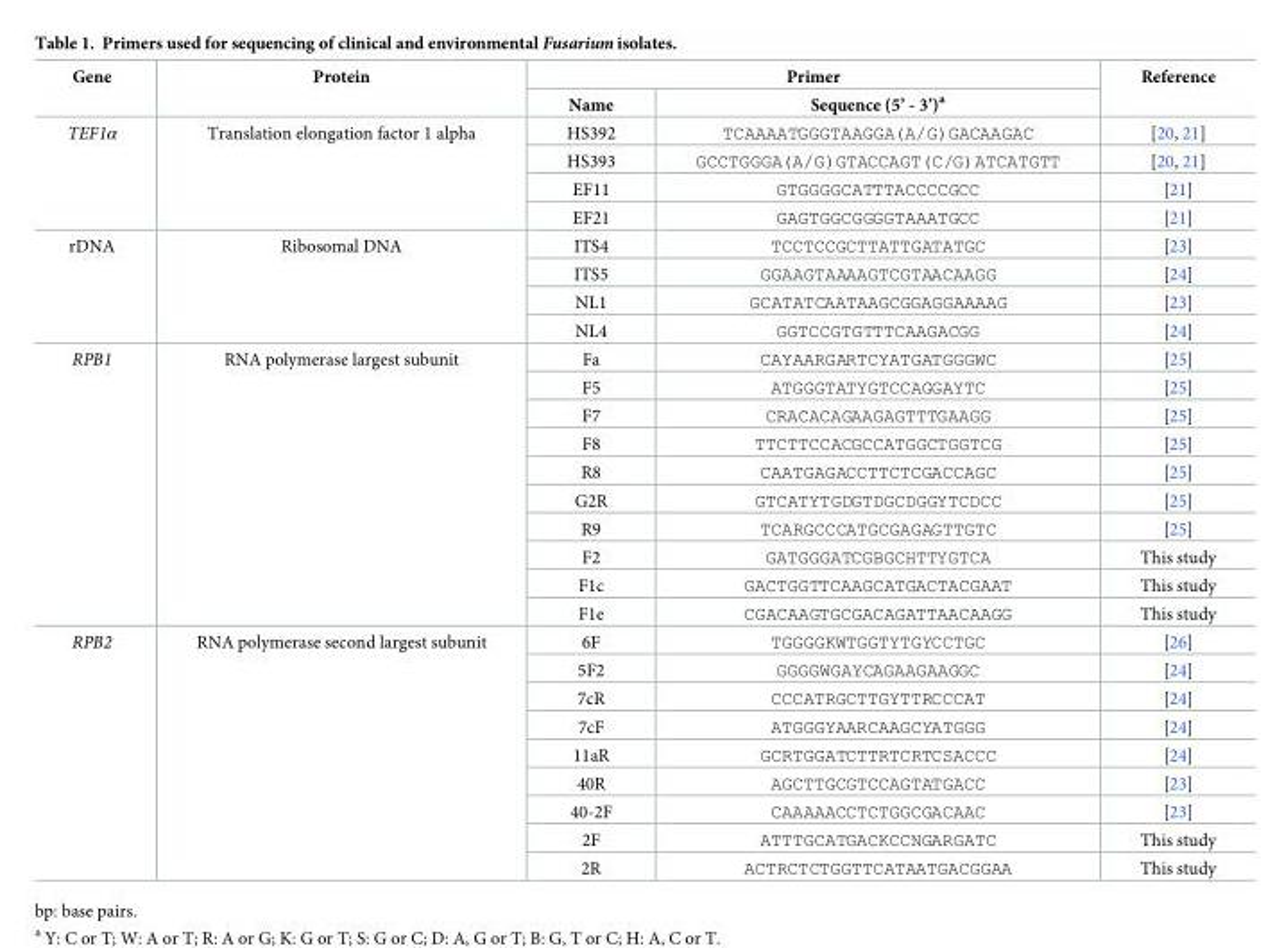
<table><thead><tr><td rowspan="2">Gene</td><td rowspan="2">Protein</td><td colspan="2">Primer</td><td rowspan="2">Reference</td></tr><tr><td>Name</td><td>Sequence (5’ - 3’)<sup>a</sup></td></tr></thead><tbody><tr><td rowspan="4">TEF1α</td><td rowspan="4">Translation elongation factor 1 alpha</td><td>HS392</td><td>TCAAAATGGGTAAGGA(A/G)GACAAGAC</td><td>[20, 21]</td></tr><tr><td>HS393</td><td>GCCTGGGA(A/G)GTACCAGT(C/G)ATCATGTT</td><td>[20, 21]</td></tr><tr><td>EF11</td><td>GTGGGGCATTTACCCCGCC</td><td>[21]</td></tr><tr><td>EF21</td><td>GAGTGGCGGGGTAAATGCC</td><td>[21]</td></tr><tr><td rowspan="4">rDNA</td><td rowspan="4">Ribosomal DNA</td><td>ITS4</td><td>TCCTCCGCTTATTGATATGC</td><td>[23]</td></tr><tr><td>ITS5</td><td>GGAAGTAAAAGTCGTAACAAGG</td><td>[24]</td></tr><tr><td>NL1</td><td>GCATATCAATAAGCGGAGGAAAAG</td><td>[23]</td></tr><tr><td>NL4</td><td>GGTCCGTGTTTCAAGACGG</td><td>[24]</td></tr><tr><td rowspan="10">RPB1</td><td rowspan="10">RNA polymerase largest subunit</td><td>Fa</td><td>CAYAARGARTCYATGATGGGWC</td><td>[25]</td></tr><tr><td>F5</td><td>ATGGGTATYGTCCAGGAYTC</td><td>[25]</td></tr><tr><td>F7</td><td>CRACACAGAAGAGTTTGAAGG</td><td>[25]</td></tr><tr><td>F8</td><td>TTCTTCCACGCCATGGCTGGTCG</td><td>[25]</td></tr><tr><td>R8</td><td>CAATGAGACCTTCTCGACCAGC</td><td>[25]</td></tr><tr><td>G2R</td><td>GTCATYTGDGTDGCDGGYTCDCC</td><td>[25]</td></tr><tr><td>R9</td><td>TCARGCCCATGCGAGAGTTGTC</td><td>[25]</td></tr><tr><td>F2</td><td>GATGGGATCGBGCHTTYGTCA</td><td>This study</td></tr><tr><td>F1c</td><td>GACTGGTTCAAGCATGACTACGAAT</td><td>This study</td></tr><tr><td>F1e</td><td>CGACAAGTGCGACAGATTAACAAGG</td><td>This study</td></tr><tr><td rowspan="9">RPB2</td><td rowspan="9">RNA polymerase second largest subunit</td><td>6F</td><td>TGGGGKWTGGTYTGYCCTGC</td><td>[26]</td></tr><tr><td>5F2</td><td>GGGGWGAYCAGAAGAAGGC</td><td>[24]</td></tr><tr><td>7cR</td><td>CCCATRGCTTGYTTRCCCAT</td><td>[24]</td></tr><tr><td>7cF</td><td>ATGGGYAARCAAGCYATGGG</td><td>[24]</td></tr><tr><td>11aR</td><td>GCRTGGATCTTRTCRTCSACCC</td><td>[24]</td></tr><tr><td>40R</td><td>AGCTTGCGTCCAGTATGACC</td><td>[23]</td></tr><tr><td>40-2F</td><td>CAAAAACCTCTGGCGACAAC</td><td>[23]</td></tr><tr><td>2F</td><td>ATTTGCATGACKCCNGARGATC</td><td>This study</td></tr><tr><td>2R</td><td>ACTRCTCTGGTTCATAATGACGGAA</td><td>This study</td></tr></tbody></table>